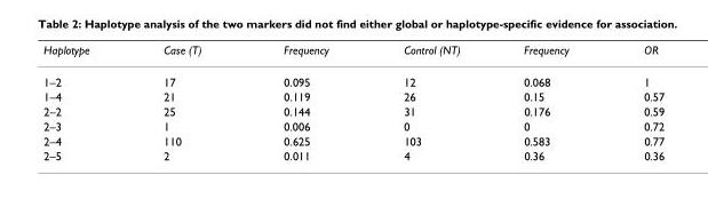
<table><thead><tr><td>Haplotype</td><td>Case (T)</td><td>Frequency</td><td>Control (NT)</td><td>Frequency</td><td>OR</td></tr></thead><tbody><tr><td>1–2</td><td>17</td><td>0.095</td><td>12</td><td>0.068</td><td>1</td></tr><tr><td>1–4</td><td>21</td><td>0.119</td><td>26</td><td>0.15</td><td>0.57</td></tr><tr><td>2–2</td><td>25</td><td>0.144</td><td>31</td><td>0.176</td><td>0.59</td></tr><tr><td>2–3</td><td>1</td><td>0.006</td><td>0</td><td>0</td><td>0.72</td></tr><tr><td>2–4</td><td>110</td><td>0.625</td><td>103</td><td>0.583</td><td>0.77</td></tr><tr><td>2–5</td><td>2</td><td>0.011</td><td>4</td><td>0.36</td><td>0.36</td></tr></tbody></table>